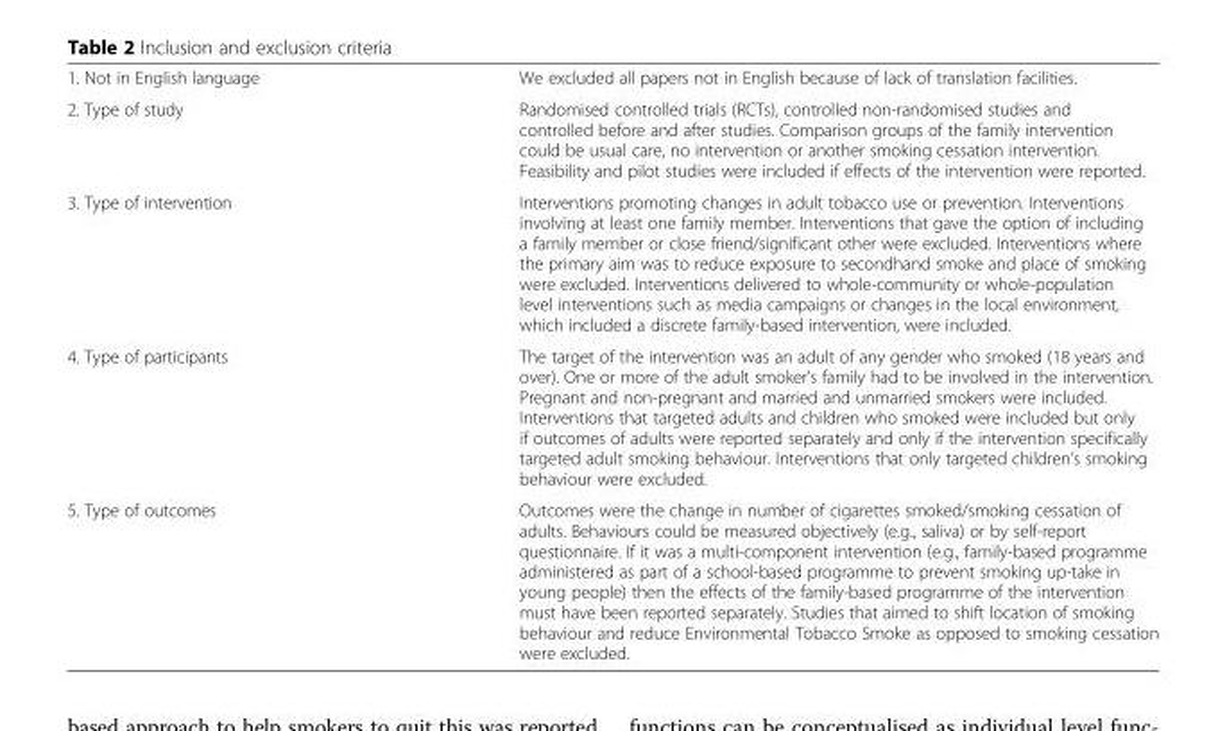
<table><tbody><tr><td>1. Not in English language</td><td>We excluded all papers not in English because of lack of translation facilities.</td></tr><tr><td>2. Type of study</td><td>Randomised controlled trials (RCTs), controlled non-randomised studies and controlled before and after studies. Comparison groups of the family intervention could be usual care, no intervention or another smoking cessation intervention. Feasibility and pilot studies were included if effects of the intervention were reported.</td></tr><tr><td>3. Type of intervention</td><td>Interventions promoting changes in adult tobacco use or prevention. Interventions involving at least one family member. Interventions that gave the option of including a family member or close friend/significant other were excluded. Interventions where the primary aim was to reduce exposure to secondhand smoke and place of smoking were excluded. Interventions delivered to whole-community or whole-population level interventions such as media campaigns or changes in the local environment, which included a discrete family-based intervention, were included.</td></tr><tr><td>4. Type of participants</td><td>The target of the intervention was an adult of any gender who smoked (18 years and over). One or more of the adult smoker’s family had to be involved in the intervention. Pregnant and non-pregnant and married and unmarried smokers were included. Interventions that targeted adults and children who smoked were included but only if outcomes of adults were reported separately and only if the intervention specifically targeted adult smoking behaviour. Interventions that only targeted children’s smoking behaviour were excluded.</td></tr><tr><td>5. Type of outcomes</td><td>Outcomes were the change in number of cigarettes smoked/smoking cessation of adults. Behaviours could be measured objectively (e.g., saliva) or by self-report questionnaire. If it was a multi-component intervention (e.g., family-based programme administered as part of a school-based programme to prevent smoking up-take in young people) then the effects of the family-based programme of the intervention must have been reported separately. Studies that aimed to shift location of smoking behaviour and reduce Environmental Tobacco Smoke as opposed to smoking cessation were excluded.</td></tr></tbody></table>